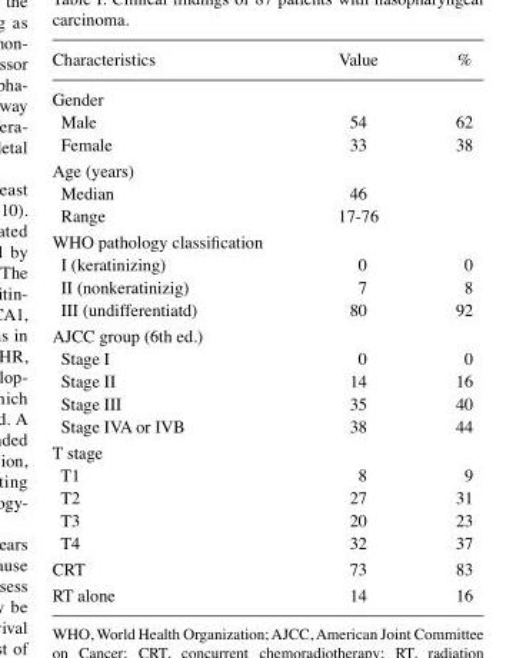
<table><thead><tr><td>Characteristics</td><td>Value</td><td>%</td></tr></thead><tbody><tr><td colspan="3">Gender</td></tr><tr><td>Male</td><td>54</td><td>62</td></tr><tr><td>Female</td><td>33</td><td>38</td></tr><tr><td colspan="3">Age (years)</td></tr><tr><td>Median</td><td>46</td><td></td></tr><tr><td>Range</td><td>17-76</td><td></td></tr><tr><td colspan="3">WHO pathology classification</td></tr><tr><td>I (keratinizing)</td><td>0</td><td>0</td></tr><tr><td>II (nonkeratinizig)</td><td>7</td><td>8</td></tr><tr><td>III (undifferentiatd)</td><td>80</td><td>92</td></tr><tr><td colspan="3">AJCC group (6th ed.)</td></tr><tr><td>Stage I</td><td>0</td><td>0</td></tr><tr><td>Stage II</td><td>14</td><td>16</td></tr><tr><td>Stage III</td><td>35</td><td>40</td></tr><tr><td>Stage IVA or IVB</td><td>38</td><td>44</td></tr><tr><td colspan="3">T stage</td></tr><tr><td>T1</td><td>8</td><td>9</td></tr><tr><td>T2</td><td>27</td><td>31</td></tr><tr><td>T3</td><td>20</td><td>23</td></tr><tr><td>T4</td><td>32</td><td>37</td></tr><tr><td>CRT</td><td>73</td><td>83</td></tr><tr><td>RT alone</td><td>14</td><td>16</td></tr></tbody></table>